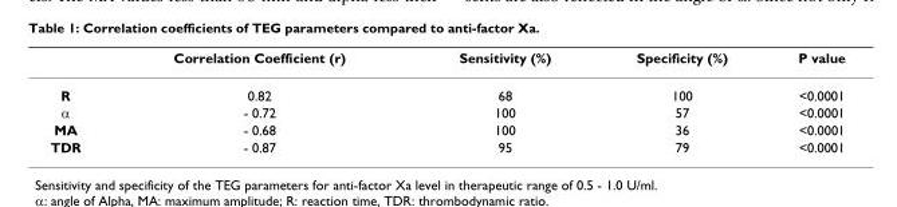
<table><thead><tr><td></td><td>Correlation Coefficient (r)</td><td>Sensitivity (%)</td><td>Specificity (%)</td><td>P value</td></tr></thead><tbody><tr><td>R</td><td>0.82</td><td>68</td><td>100</td><td>&lt;0.0001</td></tr><tr><td>α</td><td>- 0.72</td><td>100</td><td>57</td><td>&lt;0.0001</td></tr><tr><td>MA</td><td>- 0.68</td><td>100</td><td>36</td><td>&lt;0.0001</td></tr><tr><td>TDR</td><td>- 0.87</td><td>95</td><td>79</td><td>&lt;0.0001</td></tr></tbody></table>